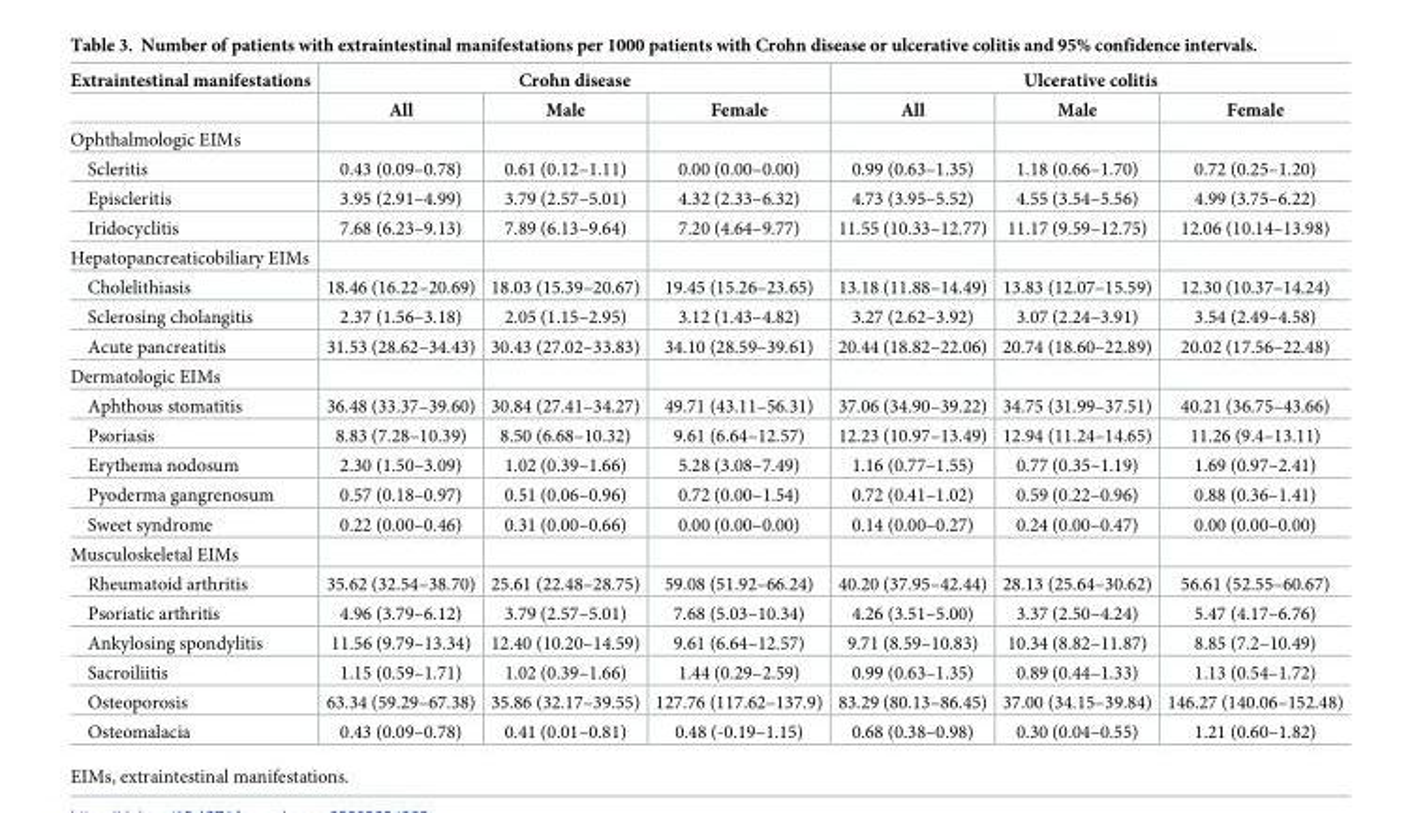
<table><thead><tr><td rowspan="2">Extraintestinal manifestations</td><td colspan="3">Crohn disease</td><td colspan="3">Ulcerative colitis</td></tr><tr><td>All</td><td>Male</td><td>Female</td><td>All</td><td>Male</td><td>Female</td></tr></thead><tbody><tr><td colspan="7">Ophthalmologic EIMs</td></tr><tr><td>Scleritis</td><td>0.43 (0.09–0.78)</td><td>0.61 (0.12–1.11)</td><td>0.00 (0.00–0.00)</td><td>0.99 (0.63–1.35)</td><td>1.18 (0.66–1.70)</td><td>0.72 (0.25–1.20)</td></tr><tr><td>Episcleritis</td><td>3.95 (2.91–4.99)</td><td>3.79 (2.57–5.01)</td><td>4.32 (2.33–6.32)</td><td>4.73 (3.95–5.52)</td><td>4.55 (3.54–5.56)</td><td>4.99 (3.75–6.22)</td></tr><tr><td>Iridocyclitis</td><td>7.68 (6.23–9.13)</td><td>7.89 (6.13–9.64)</td><td>7.20 (4.64–9.77)</td><td>11.55 (10.33–12.77)</td><td>11.17 (9.59–12.75)</td><td>12.06 (10.14–13.98)</td></tr><tr><td colspan="7">Hepatopancreaticobiliary EIMs</td></tr><tr><td>Cholelithiasis</td><td>18.46 (16.22–20.69)</td><td>18.03 (15.39–20.67)</td><td>19.45 (15.26–23.65)</td><td>13.18 (11.88–14.49)</td><td>13.83 (12.07–15.59)</td><td>12.30 (10.37–14.24)</td></tr><tr><td>Sclerosing cholangitis</td><td>2.37 (1.56–3.18)</td><td>2.05 (1.15–2.95)</td><td>3.12 (1.43–4.82)</td><td>3.27 (2.62–3.92)</td><td>3.07 (2.24–3.91)</td><td>3.54 (2.49–4.58)</td></tr><tr><td>Acute pancreatitis</td><td>31.53 (28.62–34.43)</td><td>30.43 (27.02–33.83)</td><td>34.10 (28.59–39.61)</td><td>20.44 (18.82–22.06)</td><td>20.74 (18.60–22.89)</td><td>20.02 (17.56–22.48)</td></tr><tr><td colspan="7">Dermatologic EIMs</td></tr><tr><td>Aphthous stomatitis</td><td>36.48 (33.37–39.60)</td><td>30.84 (27.41–34.27)</td><td>49.71 (43.11–56.31)</td><td>37.06 (34.90–39.22)</td><td>34.75 (31.99–37.51)</td><td>40.21 (36.75–43.66)</td></tr><tr><td>Psoriasis</td><td>8.83 (7.28–10.39)</td><td>8.50 (6.68–10.32)</td><td>9.61 (6.64–12.57)</td><td>12.23 (10.97–13.49)</td><td>12.94 (11.24–14.65)</td><td>11.26 (9.4–13.11)</td></tr><tr><td>Erythema nodosum</td><td>2.30 (1.50–3.09)</td><td>1.02 (0.39–1.66)</td><td>5.28 (3.08–7.49)</td><td>1.16 (0.77–1.55)</td><td>0.77 (0.35–1.19)</td><td>1.69 (0.97–2.41)</td></tr><tr><td>Pyoderma gangrenosum</td><td>0.57 (0.18–0.97)</td><td>0.51 (0.06–0.96)</td><td>0.72 (0.00–1.54)</td><td>0.72 (0.41–1.02)</td><td>0.59 (0.22–0.96)</td><td>0.88 (0.36–1.41)</td></tr><tr><td>Sweet syndrome</td><td>0.22 (0.00–0.46)</td><td>0.31 (0.00–0.66)</td><td>0.00 (0.00–0.00)</td><td>0.14 (0.00–0.27)</td><td>0.24 (0.00–0.47)</td><td>0.00 (0.00–0.00)</td></tr><tr><td colspan="7">Musculoskeletal EIMs</td></tr><tr><td>Rheumatoid arthritis</td><td>35.62 (32.54–38.70)</td><td>25.61 (22.48–28.75)</td><td>59.08 (51.92–66.24)</td><td>40.20 (37.95–42.44)</td><td>28.13 (25.64–30.62)</td><td>56.61 (52.55–60.67)</td></tr><tr><td>Psoriatic arthritis</td><td>4.96 (3.79–6.12)</td><td>3.79 (2.57–5.01)</td><td>7.68 (5.03–10.34)</td><td>4.26 (3.51–5.00)</td><td>3.37 (2.50–4.24)</td><td>5.47 (4.17–6.76)</td></tr><tr><td>Ankylosing spondylitis</td><td>11.56 (9.79–13.34)</td><td>12.40 (10.20–14.59)</td><td>9.61 (6.64–12.57)</td><td>9.71 (8.59–10.83)</td><td>10.34 (8.82–11.87)</td><td>8.85 (7.2–10.49)</td></tr><tr><td>Sacroiliitis</td><td>1.15 (0.59–1.71)</td><td>1.02 (0.39–1.66)</td><td>1.44 (0.29–2.59)</td><td>0.99 (0.63–1.35)</td><td>0.89 (0.44–1.33)</td><td>1.13 (0.54–1.72)</td></tr><tr><td>Osteoporosis</td><td>63.34 (59.29–67.38)</td><td>35.86 (32.17–39.55)</td><td>127.76 (117.62–137.9)</td><td>83.29 (80.13–86.45)</td><td>37.00 (34.15–39.84)</td><td>146.27 (140.06–152.48)</td></tr><tr><td>Osteomalacia</td><td>0.43 (0.09–0.78)</td><td>0.41 (0.01–0.81)</td><td>0.48 (-0.19–1.15)</td><td>0.68 (0.38–0.98)</td><td>0.30 (0.04–0.55)</td><td>1.21 (0.60–1.82)</td></tr></tbody></table>